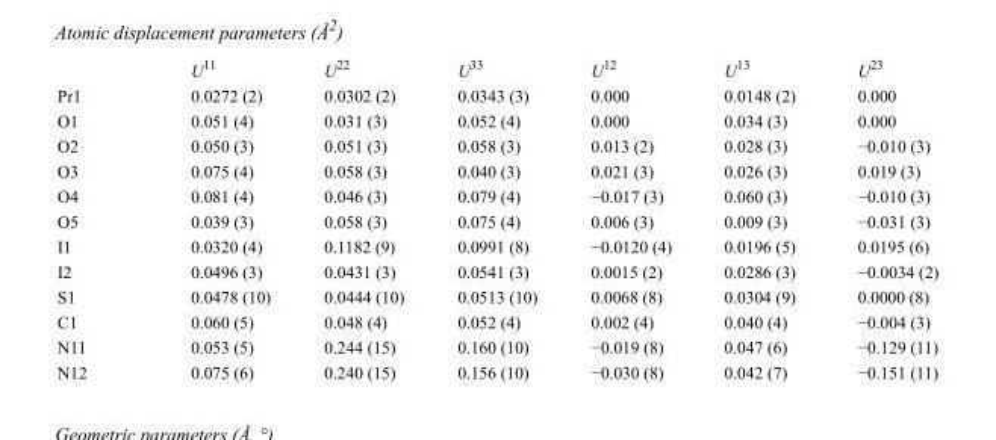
<table><thead><tr><td></td><td>U<sup>11</sup></td><td>U<sup>22</sup></td><td>U<sup>33</sup></td><td>U<sup>12</sup></td><td>U<sup>13</sup></td><td>U<sup>23</sup></td></tr></thead><tbody><tr><td>Pr1</td><td>0.0272 (2)</td><td>0.0302 (2)</td><td>0.0343 (3)</td><td>0.000</td><td>0.0148 (2)</td><td>0.000</td></tr><tr><td>O1</td><td>0.051 (4)</td><td>0.031 (3)</td><td>0.052 (4)</td><td>0.000</td><td>0.034 (3)</td><td>0.000</td></tr><tr><td>O2</td><td>0.050 (3)</td><td>0.051 (3)</td><td>0.058 (3)</td><td>0.013 (2)</td><td>0.028 (3)</td><td>−0.010 (3)</td></tr><tr><td>O3</td><td>0.075 (4)</td><td>0.058 (3)</td><td>0.040 (3)</td><td>0.021 (3)</td><td>0.026 (3)</td><td>0.019 (3)</td></tr><tr><td>O4</td><td>0.081 (4)</td><td>0.046 (3)</td><td>0.079 (4)</td><td>−0.017 (3)</td><td>0.060 (3)</td><td>−0.010 (3)</td></tr><tr><td>O5</td><td>0.039 (3)</td><td>0.058 (3)</td><td>0.075 (4)</td><td>0.006 (3)</td><td>0.009 (3)</td><td>−0.031 (3)</td></tr><tr><td>I1</td><td>0.0320 (4)</td><td>0.1182 (9)</td><td>0.0991 (8)</td><td>−0.0120 (4)</td><td>0.0196 (5)</td><td>0.0195 (6)</td></tr><tr><td>I2</td><td>0.0496 (3)</td><td>0.0431 (3)</td><td>0.0541 (3)</td><td>0.0015 (2)</td><td>0.0286 (3)</td><td>−0.0034 (2)</td></tr><tr><td>S1</td><td>0.0478 (10)</td><td>0.0444 (10)</td><td>0.0513 (10)</td><td>0.0068 (8)</td><td>0.0304 (9)</td><td>0.0000 (8)</td></tr><tr><td>C1</td><td>0.060 (5)</td><td>0.048 (4)</td><td>0.052 (4)</td><td>0.002 (4)</td><td>0.040 (4)</td><td>−0.004 (3)</td></tr><tr><td>N11</td><td>0.053 (5)</td><td>0.244 (15)</td><td>0.160 (10)</td><td>−0.019 (8)</td><td>0.047 (6)</td><td>−0.129 (11)</td></tr><tr><td>N12</td><td>0.075 (6)</td><td>0.240 (15)</td><td>0.156 (10)</td><td>−0.030 (8)</td><td>0.042 (7)</td><td>−0.151 (11)</td></tr></tbody></table>